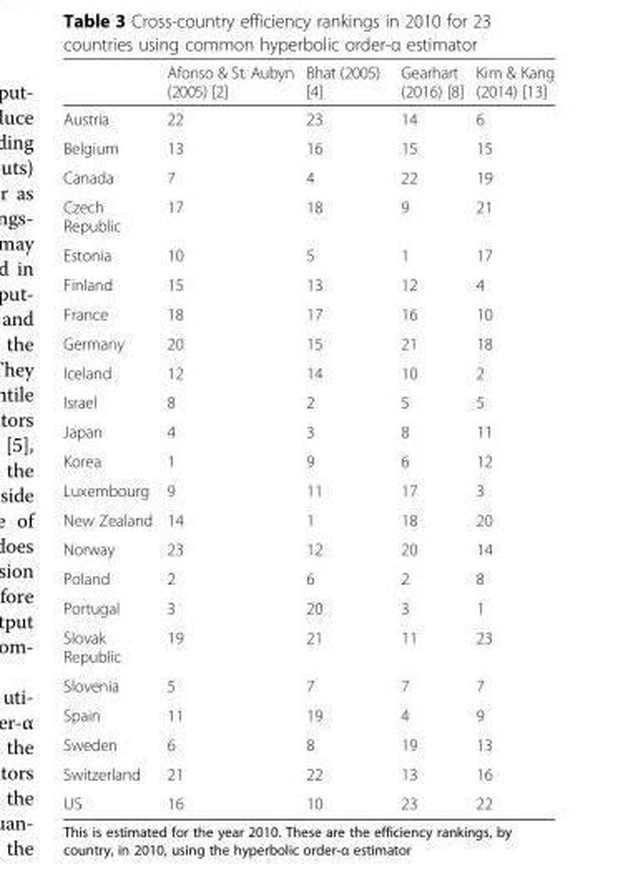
<table><thead><tr><td></td><td>Afonso &amp; St. Aubyn (2005) [2]</td><td>Bhat (2005) [4]</td><td>Gearhart (2016) [8]</td><td>Kim &amp; Kang (2014) [13]</td></tr></thead><tbody><tr><td>Austria</td><td>22</td><td>23</td><td>14</td><td>6</td></tr><tr><td>Belgium</td><td>13</td><td>16</td><td>15</td><td>15</td></tr><tr><td>Canada</td><td>7</td><td>4</td><td>22</td><td>19</td></tr><tr><td>Czech Republic</td><td>17</td><td>18</td><td>9</td><td>21</td></tr><tr><td>Estonia</td><td>10</td><td>5</td><td>1</td><td>17</td></tr><tr><td>Finland</td><td>15</td><td>13</td><td>12</td><td>4</td></tr><tr><td>France</td><td>18</td><td>17</td><td>16</td><td>10</td></tr><tr><td>Germany</td><td>20</td><td>15</td><td>21</td><td>18</td></tr><tr><td>Iceland</td><td>12</td><td>14</td><td>10</td><td>2</td></tr><tr><td>Israel</td><td>8</td><td>2</td><td>5</td><td>5</td></tr><tr><td>Japan</td><td>4</td><td>3</td><td>8</td><td>11</td></tr><tr><td>Korea</td><td>1</td><td>9</td><td>6</td><td>12</td></tr><tr><td>Luxembourg</td><td>9</td><td>11</td><td>17</td><td>3</td></tr><tr><td>New Zealand</td><td>14</td><td>1</td><td>18</td><td>20</td></tr><tr><td>Norway</td><td>23</td><td>12</td><td>20</td><td>14</td></tr><tr><td>Poland</td><td>2</td><td>6</td><td>2</td><td>8</td></tr><tr><td>Portugal</td><td>3</td><td>20</td><td>3</td><td>1</td></tr><tr><td>Slovak Republic</td><td>19</td><td>21</td><td>11</td><td>23</td></tr><tr><td>Slovenia</td><td>5</td><td>7</td><td>7</td><td>7</td></tr><tr><td>Spain</td><td>11</td><td>19</td><td>4</td><td>9</td></tr><tr><td>Sweden</td><td>6</td><td>8</td><td>19</td><td>13</td></tr><tr><td>Switzerland</td><td>21</td><td>22</td><td>13</td><td>16</td></tr><tr><td>US</td><td>16</td><td>10</td><td>23</td><td>22</td></tr></tbody></table>